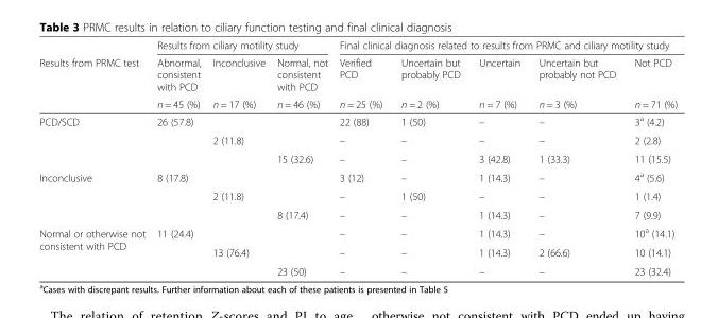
<table><thead><tr><td rowspan="3">Results from PRMC test</td><td colspan="3">Results from ciliary motility study</td><td colspan="5">Final clinical diagnosis related to results from PRMC and ciliary motility study</td></tr><tr><td rowspan="2">Abnormal, consistent with PCD n = 45 (%)</td><td rowspan="2">Inconclusive n = 17 (%)</td><td rowspan="2">Normal, not consistent with PCD n = 46 (%)</td><td rowspan="2">Verified PCD n = 25 (%)</td><td rowspan="2">Uncertain but probably PCD n = 2 (%)</td><td rowspan="2">Uncertain n = 7 (%)</td><td rowspan="2">Uncertain but probably not PCD n = 3 (%)</td><td rowspan="2">Not PCD n = 71 (%)</td></tr><tr></tr></thead><tbody><tr><td rowspan="3">PCD/SCD</td><td>26 (57.8)</td><td></td><td rowspan="2"></td><td>22 (88)</td><td>1 (50)</td><td>–</td><td>–</td><td>3<sup>a</sup> (4.2)</td></tr><tr><td rowspan="2"></td><td>2 (11.8)</td><td>–</td><td>–</td><td>–</td><td>–</td><td>2 (2.8)</td></tr><tr><td></td><td>15 (32.6)</td><td>–</td><td>–</td><td>3 (42.8)</td><td>1 (33.3)</td><td>11 (15.5)</td></tr><tr><td rowspan="3">Inconclusive</td><td>8 (17.8)</td><td></td><td rowspan="2"></td><td>3 (12)</td><td>–</td><td>1 (14.3)</td><td>–</td><td>4<sup>a</sup> (5.6)</td></tr><tr><td rowspan="2"></td><td>2 (11.8)</td><td>–</td><td>1 (50)</td><td>–</td><td>–</td><td>1 (1.4)</td></tr><tr><td></td><td>8 (17.4)</td><td>–</td><td>–</td><td>1 (14.3)</td><td>–</td><td>7 (9.9)</td></tr><tr><td rowspan="3">Normal or otherwise not consistent with PCD</td><td>11 (24.4)</td><td></td><td rowspan="2"></td><td>–</td><td>–</td><td>1 (14.3)</td><td>–</td><td>10<sup>a</sup> (14.1)</td></tr><tr><td rowspan="2"></td><td>13 (76.4)</td><td>–</td><td>–</td><td>1 (14.3)</td><td>2 (66.6)</td><td>10 (14.1)</td></tr><tr><td></td><td>23 (50)</td><td>–</td><td>–</td><td>–</td><td>–</td><td>23 (32.4)</td></tr></tbody></table>